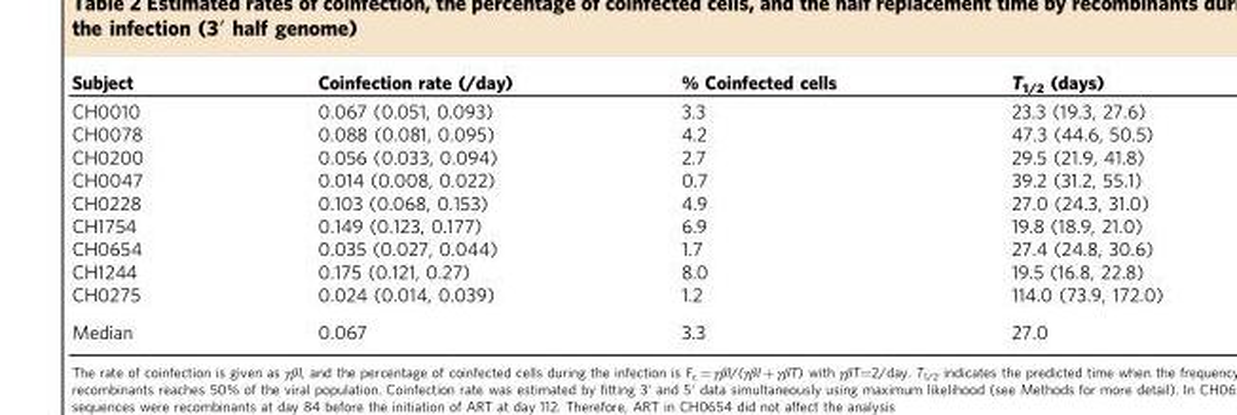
<table><thead><tr><td>Subject</td><td>Coinfection rate (/day)</td><td>% Coinfected cells</td><td>T<sub>1/2</sub> (days)</td></tr></thead><tbody><tr><td>CH0010</td><td>0.067 (0.051, 0.093)</td><td>3.3</td><td>23.3 (19.3, 27.6)</td></tr><tr><td>CH0078</td><td>0.088 (0.081, 0.095)</td><td>4.2</td><td>47.3 (44.6, 50.5)</td></tr><tr><td>CH0200</td><td>0.056 (0.033, 0.094)</td><td>2.7</td><td>29.5 (21.9, 41.8)</td></tr><tr><td>CH0047</td><td>0.014 (0.008, 0.022)</td><td>0.7</td><td>39.2 (31.2, 55.1)</td></tr><tr><td>CH0228</td><td>0.103 (0.068, 0.153)</td><td>4.9</td><td>27.0 (24.3, 31.0)</td></tr><tr><td>CH1754</td><td>0.149 (0.123, 0.177)</td><td>6.9</td><td>19.8 (18.9, 21.0)</td></tr><tr><td>CH0654</td><td>0.035 (0.027, 0.044)</td><td>1.7</td><td>27.4 (24.8, 30.6)</td></tr><tr><td>CH1244</td><td>0.175 (0.121, 0.27)</td><td>8.0</td><td>19.5 (16.8, 22.8)</td></tr><tr><td>CH0275</td><td>0.024 (0.014, 0.039)</td><td>1.2</td><td>114.0 (73.9, 172.0)</td></tr><tr><td>Median</td><td>0.067</td><td>3.3</td><td>27.0</td></tr></tbody></table>